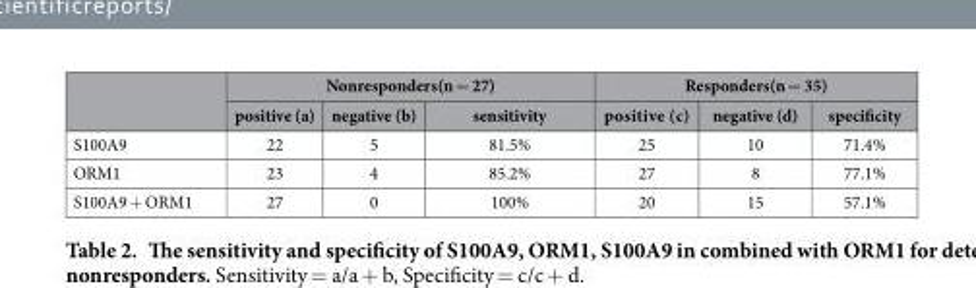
<table><thead><tr><td rowspan="2"></td><td colspan="3">Nonresponders(n = 27)</td><td colspan="3">Responders(n = 35)</td></tr><tr><td>positive (a)</td><td>negative (b)</td><td>sensitivity</td><td>positive (c)</td><td>negative (d)</td><td>specificity</td></tr></thead><tbody><tr><td>S100A9</td><td>22</td><td>5</td><td>81.5%</td><td>25</td><td>10</td><td>71.4%</td></tr><tr><td>ORM1</td><td>23</td><td>4</td><td>85.2%</td><td>27</td><td>8</td><td>77.1%</td></tr><tr><td>S100A9 + ORM1</td><td>27</td><td>0</td><td>100%</td><td>20</td><td>15</td><td>57.1%</td></tr></tbody></table>